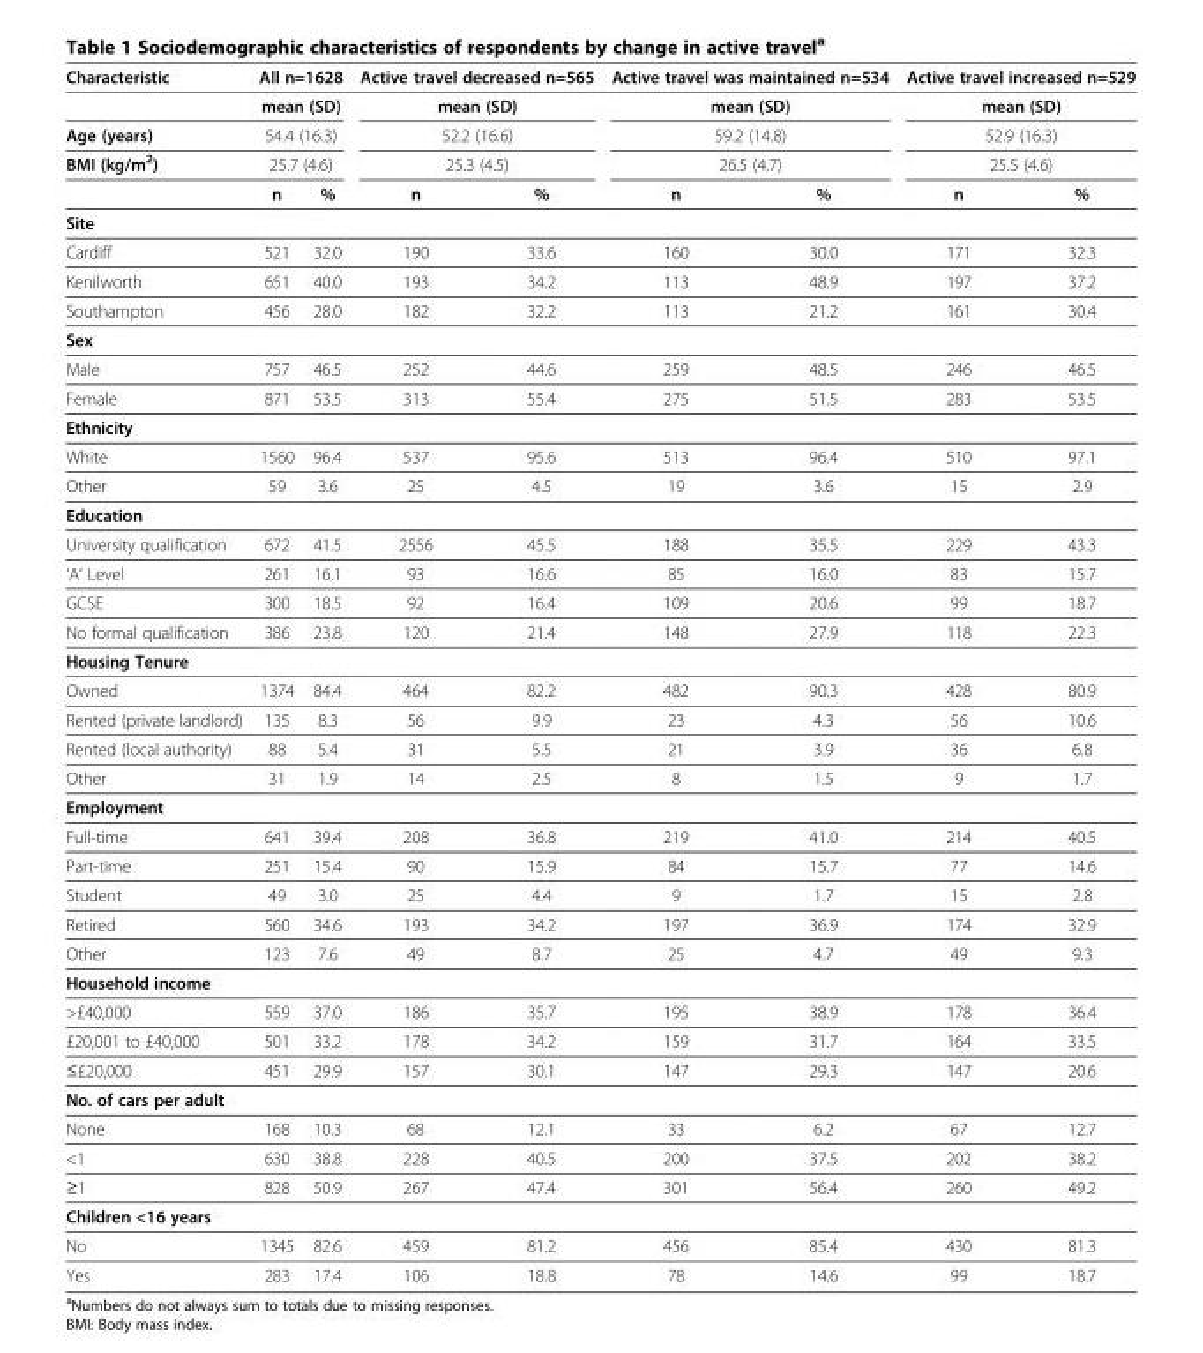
<table><thead><tr><td>Characteristic</td><td colspan="2">All n=1628</td><td colspan="2">Active travel decreased n=565</td><td colspan="2">Active travel was maintained n=534</td><td colspan="2">Active travel increased n=529</td></tr></thead><tbody><tr><td></td><td colspan="2">mean (SD)</td><td colspan="2">mean (SD)</td><td colspan="2">mean (SD)</td><td colspan="2">mean (SD)</td></tr><tr><td>Age (years)</td><td colspan="2">54.4 (16.3)</td><td colspan="2">52.2 (16.6)</td><td colspan="2">59.2 (14.8)</td><td colspan="2">52.9 (16.3)</td></tr><tr><td rowspan="2">BMI (kg/m<sup>2</sup>)</td><td colspan="2">25.7 (4.6)</td><td colspan="2">25.3 (4.5)</td><td colspan="2">26.5 (4.7)</td><td colspan="2">25.5 (4.6)</td></tr><tr><td>n</td><td>%</td><td>n</td><td>%</td><td>n</td><td>%</td><td>n</td><td>%</td></tr><tr><td colspan="9">Site</td></tr><tr><td>Cardiff</td><td>521</td><td>32.0</td><td>190</td><td>33.6</td><td>160</td><td>30.0</td><td>171</td><td>32.3</td></tr><tr><td>Kenilworth</td><td>651</td><td>40.0</td><td>193</td><td>34.2</td><td>113</td><td>48.9</td><td>197</td><td>37.2</td></tr><tr><td>Southampton</td><td>456</td><td>28.0</td><td>182</td><td>32.2</td><td>113</td><td>21.2</td><td>161</td><td>30.4</td></tr><tr><td colspan="9">Sex</td></tr><tr><td>Male</td><td>757</td><td>46.5</td><td>252</td><td>44.6</td><td>259</td><td>48.5</td><td>246</td><td>46.5</td></tr><tr><td>Female</td><td>871</td><td>53.5</td><td>313</td><td>55.4</td><td>275</td><td>51.5</td><td>283</td><td>53.5</td></tr><tr><td colspan="9">Ethnicity</td></tr><tr><td>White</td><td>1560</td><td>96.4</td><td>537</td><td>95.6</td><td>513</td><td>96.4</td><td>510</td><td>97.1</td></tr><tr><td>Other</td><td>59</td><td>3.6</td><td>25</td><td>4.5</td><td>19</td><td>3.6</td><td>15</td><td>2.9</td></tr><tr><td colspan="9">Education</td></tr><tr><td>University qualification</td><td>672</td><td>41.5</td><td>2556</td><td>45.5</td><td>188</td><td>35.5</td><td>229</td><td>43.3</td></tr><tr><td>‘A’ Level</td><td>261</td><td>16.1</td><td>93</td><td>16.6</td><td>85</td><td>16.0</td><td>83</td><td>15.7</td></tr><tr><td>GCSE</td><td>300</td><td>18.5</td><td>92</td><td>16.4</td><td>109</td><td>20.6</td><td>99</td><td>18.7</td></tr><tr><td>No formal qualification</td><td>386</td><td>23.8</td><td>120</td><td>21.4</td><td>148</td><td>27.9</td><td>118</td><td>22.3</td></tr><tr><td colspan="9">Housing Tenure</td></tr><tr><td>Owned</td><td>1374</td><td>84.4</td><td>464</td><td>82.2</td><td>482</td><td>90.3</td><td>428</td><td>80.9</td></tr><tr><td>Rented (private landlord)</td><td>135</td><td>8.3</td><td>56</td><td>9.9</td><td>23</td><td>4.3</td><td>56</td><td>10.6</td></tr><tr><td>Rented (local authority)</td><td>88</td><td>5.4</td><td>31</td><td>5.5</td><td>21</td><td>3.9</td><td>36</td><td>6.8</td></tr><tr><td>Other</td><td>31</td><td>1.9</td><td>14</td><td>2.5</td><td>8</td><td>1.5</td><td>9</td><td>1.7</td></tr><tr><td colspan="9">Employment</td></tr><tr><td>Full-time</td><td>641</td><td>39.4</td><td>208</td><td>36.8</td><td>219</td><td>41.0</td><td>214</td><td>40.5</td></tr><tr><td>Part-time</td><td>251</td><td>15.4</td><td>90</td><td>15.9</td><td>84</td><td>15.7</td><td>77</td><td>14.6</td></tr><tr><td>Student</td><td>49</td><td>3.0</td><td>25</td><td>4.4</td><td>9</td><td>1.7</td><td>15</td><td>2.8</td></tr><tr><td>Retired</td><td>560</td><td>34.6</td><td>193</td><td>34.2</td><td>197</td><td>36.9</td><td>174</td><td>32.9</td></tr><tr><td>Other</td><td>123</td><td>7.6</td><td>49</td><td>8.7</td><td>25</td><td>4.7</td><td>49</td><td>9.3</td></tr><tr><td colspan="9">Household income</td></tr><tr><td>&gt;£40,000</td><td>559</td><td>37.0</td><td>186</td><td>35.7</td><td>195</td><td>38.9</td><td>178</td><td>36.4</td></tr><tr><td>£20,001 to £40,000</td><td>501</td><td>33.2</td><td>178</td><td>34.2</td><td>159</td><td>31.7</td><td>164</td><td>33.5</td></tr><tr><td>≤£20,000</td><td>451</td><td>29.9</td><td>157</td><td>30.1</td><td>147</td><td>29.3</td><td>147</td><td>20.6</td></tr><tr><td colspan="9">No. of cars per adult</td></tr><tr><td>None</td><td>168</td><td>10.3</td><td>68</td><td>12.1</td><td>33</td><td>6.2</td><td>67</td><td>12.7</td></tr><tr><td>&lt;1</td><td>630</td><td>38.8</td><td>228</td><td>40.5</td><td>200</td><td>37.5</td><td>202</td><td>38.2</td></tr><tr><td>≥1</td><td>828</td><td>50.9</td><td>267</td><td>47.4</td><td>301</td><td>56.4</td><td>260</td><td>49.2</td></tr><tr><td colspan="9">Children &lt;16 years</td></tr><tr><td>No</td><td>1345</td><td>82.6</td><td>459</td><td>81.2</td><td>456</td><td>85.4</td><td>430</td><td>81.3</td></tr><tr><td>Yes</td><td>283</td><td>17.4</td><td>106</td><td>18.8</td><td>78</td><td>14.6</td><td>99</td><td>18.7</td></tr></tbody></table>